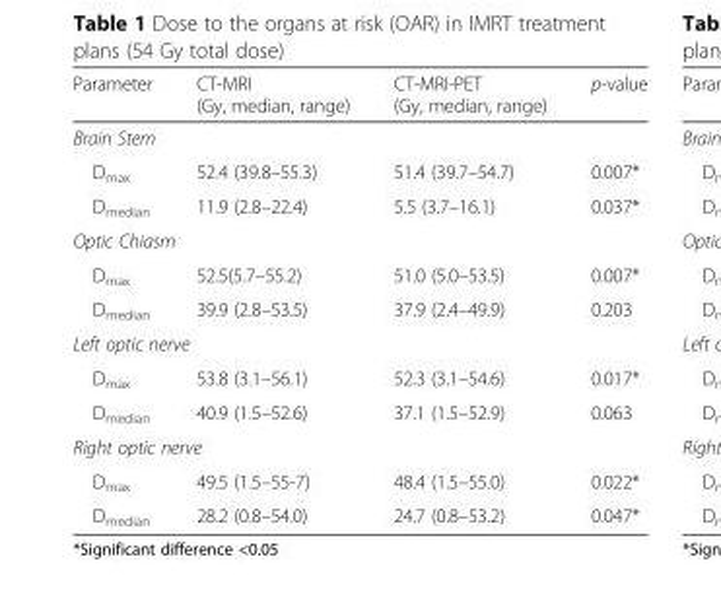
<table><thead><tr><td>Parameter</td><td>CT-MRI (Gy, median, range)</td><td>CT-MRI-PET (Gy, median, range)</td><td>p-value</td></tr></thead><tbody><tr><td colspan="4">Brain Stem</td></tr><tr><td>D<sub>max</sub></td><td>52.4 (39.8–55.3)</td><td>51.4 (39.7–54.7)</td><td>0.007*</td></tr><tr><td>D<sub>median</sub></td><td>11.9 (2.8–22.4)</td><td>5.5 (3.7–16.1)</td><td>0.037*</td></tr><tr><td colspan="4">Optic Chiasm</td></tr><tr><td>D<sub>max</sub></td><td>52.5(5.7–55.2)</td><td>51.0 (5.0–53.5)</td><td>0.007*</td></tr><tr><td>D<sub>median</sub></td><td>39.9 (2.8–53.5)</td><td>37.9 (2.4–49.9)</td><td>0.203</td></tr><tr><td colspan="4">Left optic nerve</td></tr><tr><td>D<sub>max</sub></td><td>53.8 (3.1–56.1)</td><td>52.3 (3.1–54.6)</td><td>0.017*</td></tr><tr><td>D<sub>median</sub></td><td>40.9 (1.5–52.6)</td><td>37.1 (1.5–52.9)</td><td>0.063</td></tr><tr><td colspan="4">Right optic nerve</td></tr><tr><td>D<sub>max</sub></td><td>49.5 (1.5–55-7)</td><td>48.4 (1.5–55.0)</td><td>0.022*</td></tr><tr><td>D<sub>median</sub></td><td>28.2 (0.8–54.0)</td><td>24.7 (0.8–53.2)</td><td>0.047*</td></tr></tbody></table>